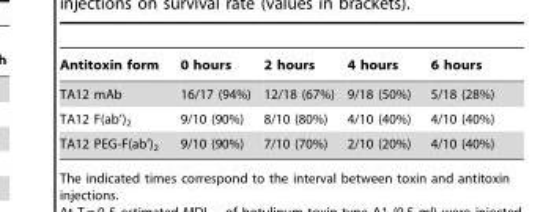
<table><thead><tr><td>Antitoxin form</td><td>0 hours</td><td>2 hours</td><td>4 hours</td><td>6 hours</td></tr></thead><tbody><tr><td>TA12 mAb</td><td>16/17 (94%)</td><td>12/18 (67%)</td><td>9/18 (50%)</td><td>5/18 (28%)</td></tr><tr><td>TA12 F(ab’)<sub>2</sub></td><td>9/10 (90%)</td><td>8/10 (80%)</td><td>4/10 (40%)</td><td>4/10 (40%)</td></tr><tr><td>TA12 PEG-F(ab’)<sub>2</sub></td><td>9/10 (90%)</td><td>7/10 (70%)</td><td>2/10 (20%)</td><td>4/10 (40%)</td></tr></tbody></table>